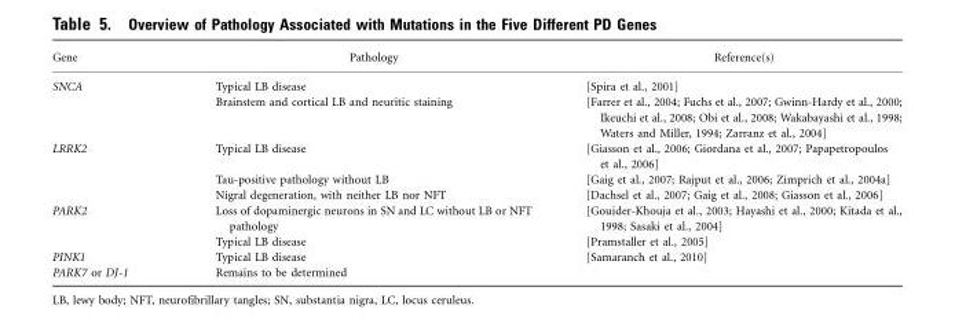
<table><thead><tr><td>Gene</td><td>Pathology</td><td>Reference(s)</td></tr></thead><tbody><tr><td rowspan="2">SNCA</td><td>Typical LB disease</td><td>[Spira et al., 2001]</td></tr><tr><td>Brainstem and cortical LB and neuritic staining</td><td>[Farrer et al., 2004; Fuchs et al., 2007; Gwinn-Hardy et al., 2000; Ikeuchi et al., 2008; Obi et al., 2008; Wakabayashi et al., 1998; Waters and Miller, 1994; Zarranz et al., 2004]</td></tr><tr><td rowspan="3">LRRK2</td><td>Typical LB disease</td><td>[Giasson et al., 2006; Giordana et al., 2007; Papapetropoulos et al., 2006]</td></tr><tr><td>Tau-positive pathology without LB</td><td>[Gaig et al., 2007; Rajput et al., 2006; Zimprich et al., 2004a]</td></tr><tr><td>Nigral degeneration, with neither LB nor NFT</td><td>[Dachsel et al., 2007; Gaig et al., 2008; Giasson et al., 2006]</td></tr><tr><td rowspan="2">PARK2</td><td>Loss of dopaminergic neurons in SN and LC without LB or NFT pathology</td><td>[Gouider-Khouja et al., 2003; Hayashi et al., 2000; Kitada et al., 1998; Sasaki et al., 2004]</td></tr><tr><td>Typical LB disease</td><td>[Pramstaller et al., 2005]</td></tr><tr><td>PINK1</td><td>Typical LB disease</td><td>[Samaranch et al., 2010]</td></tr><tr><td>PARK7 or DJ-1</td><td>Remains to be determined</td><td></td></tr></tbody></table>